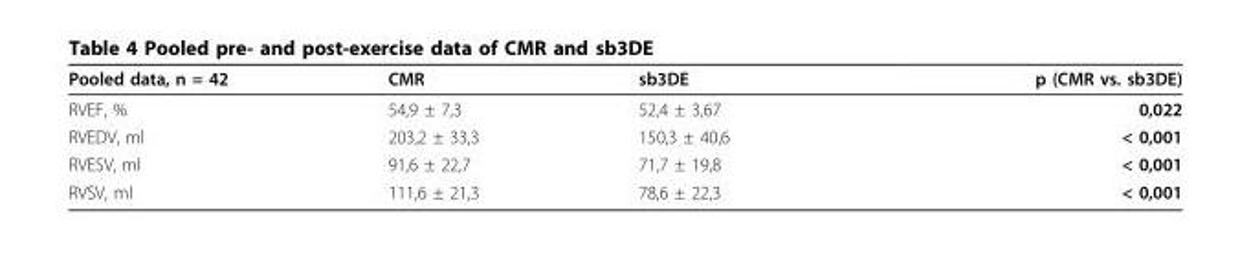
<table><thead><tr><td>Pooled data, n = 42</td><td>CMR</td><td>sb3DE</td><td>p (CMR vs. sb3DE)</td></tr></thead><tbody><tr><td>RVEF, %</td><td>54,9 ± 7,3</td><td>52,4 ± 3,67</td><td>0,022</td></tr><tr><td>RVEDV, ml</td><td>203,2 ± 33,3</td><td>150,3 ± 40,6</td><td>&lt; 0,001</td></tr><tr><td>RVESV, ml</td><td>91,6 ± 22,7</td><td>71,7 ± 19,8</td><td>&lt; 0,001</td></tr><tr><td>RVSV, ml</td><td>111,6 ± 21,3</td><td>78,6 ± 22,3</td><td>&lt; 0,001</td></tr></tbody></table>